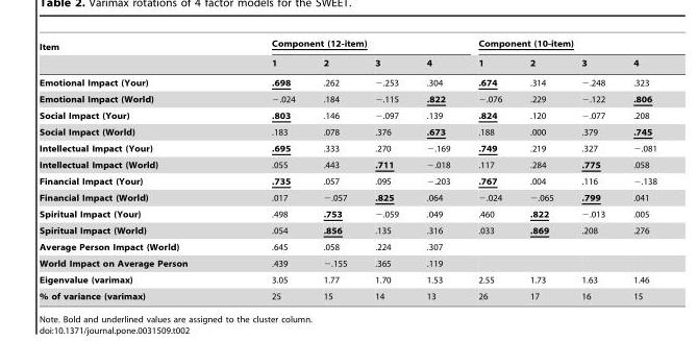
<table><thead><tr><td rowspan="2">Item</td><td colspan="4">Component (12-item)</td><td colspan="4">Component (10-item)</td></tr><tr><td>1</td><td>2</td><td>3</td><td>4</td><td>1</td><td>2</td><td>3</td><td>4</td></tr></thead><tbody><tr><td>Emotional Impact (Your)</td><td>.698</td><td>.262</td><td>−.253</td><td>.304</td><td>.674</td><td>.314</td><td>−.248</td><td>.323</td></tr><tr><td>Emotional Impact (World)</td><td>−.024</td><td>.184</td><td>−.115</td><td>.822</td><td>−.076</td><td>.229</td><td>−.122</td><td>.806</td></tr><tr><td>Social Impact (Your)</td><td>.803</td><td>.146</td><td>−.097</td><td>.139</td><td>.824</td><td>.120</td><td>−.077</td><td>.208</td></tr><tr><td>Social Impact (World)</td><td>.183</td><td>.078</td><td>.376</td><td>.673</td><td>.188</td><td>.000</td><td>.379</td><td>.745</td></tr><tr><td>Intellectual Impact (Your)</td><td>.695</td><td>.333</td><td>.270</td><td>−.169</td><td>.749</td><td>.219</td><td>.327</td><td>−.081</td></tr><tr><td>Intellectual Impact (World)</td><td>.055</td><td>.443</td><td>.711</td><td>−.018</td><td>.117</td><td>.284</td><td>.775</td><td>.058</td></tr><tr><td>Financial Impact (Your)</td><td>.735</td><td>.057</td><td>.095</td><td>−.203</td><td>.767</td><td>.004</td><td>.116</td><td>−.138</td></tr><tr><td>Financial Impact (World)</td><td>.017</td><td>−.057</td><td>.825</td><td>.064</td><td>−.024</td><td>−.065</td><td>.799</td><td>.041</td></tr><tr><td>Spiritual Impact (Your)</td><td>.498</td><td>.753</td><td>−.059</td><td>.049</td><td>.460</td><td>.822</td><td>−.013</td><td>.005</td></tr><tr><td>Spiritual Impact (World)</td><td>.054</td><td>.856</td><td>.135</td><td>.316</td><td>.033</td><td>.869</td><td>.208</td><td>.276</td></tr><tr><td>Average Person Impact (World)</td><td>.645</td><td>.058</td><td>.224</td><td>.307</td><td></td><td></td><td></td><td></td></tr><tr><td>World Impact on Average Person</td><td>.439</td><td>−.155</td><td>.365</td><td>.119</td><td></td><td></td><td></td><td></td></tr><tr><td>Eigenvalue (varimax)</td><td>3.05</td><td>1.77</td><td>1.70</td><td>1.53</td><td>2.55</td><td>1.73</td><td>1.63</td><td>1.46</td></tr><tr><td>% of variance (varimax)</td><td>25</td><td>15</td><td>14</td><td>13</td><td>26</td><td>17</td><td>16</td><td>15</td></tr></tbody></table>